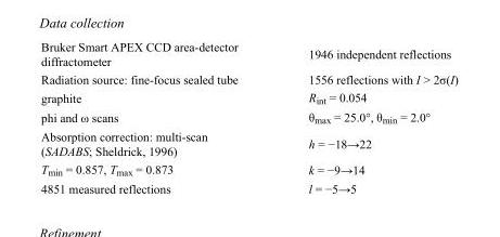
<table><tbody><tr><td>Bruker Smart APEX CCD area-detector diffractometer</td><td>1946 independent reflections</td></tr><tr><td>Radiation source: fine-focus sealed tube</td><td>1556 reflections with I &gt; 2σ(I)</td></tr><tr><td>graphite</td><td>R<sub>int</sub> = 0.054</td></tr><tr><td>phi and ω scans</td><td>θ<sub>max</sub> = 25.0°, θ<sub>min</sub> = 2.0°</td></tr><tr><td>Absorption correction: multi-scan (SADABS; Sheldrick, 1996)</td><td>h = −18→22</td></tr><tr><td>T<sub>min</sub> = 0.857, T<sub>max</sub> = 0.873</td><td>k = −9→14</td></tr><tr><td>4851 measured reflections</td><td>l = −5→5</td></tr></tbody></table>